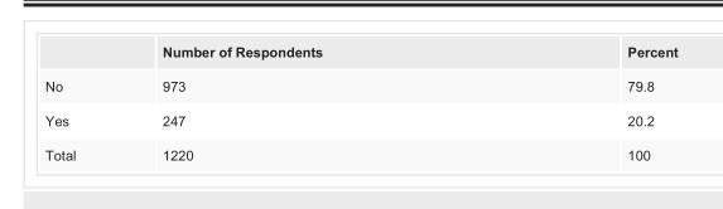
<table><thead><tr><td></td><td>Number of Respondents</td><td>Percent</td></tr></thead><tbody><tr><td>No</td><td>973</td><td>79.8</td></tr><tr><td>Yes</td><td>247</td><td>20.2</td></tr><tr><td>Total</td><td>1220</td><td>100</td></tr></tbody></table>